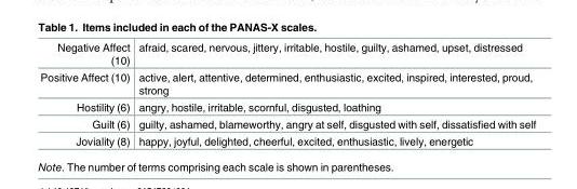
<table><tbody><tr><td>Negative Affect (10)</td><td>afraid, scared, nervous, jittery, irritable, hostile, guilty, ashamed, upset, distressed</td></tr><tr><td>Positive Affect (10)</td><td>active, alert, attentive, determined, enthusiastic, excited, inspired, interested, proud, strong</td></tr><tr><td>Hostility (6)</td><td>angry, hostile, irritable, scornful, disgusted, loathing</td></tr><tr><td>Guilt (6)</td><td>guilty, ashamed, blameworthy, angry at self, disgusted with self, dissatisfied with self</td></tr><tr><td>Joviality (8)</td><td>happy, joyful, delighted, cheerful, excited, enthusiastic, lively, energetic</td></tr></tbody></table>